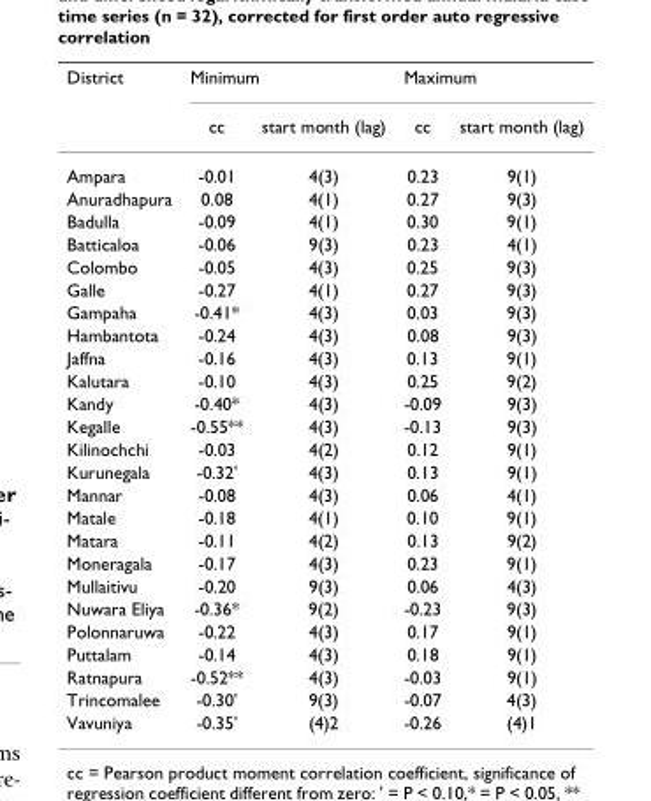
<table><thead><tr><td rowspan="2">District</td><td colspan="2">Minimum</td><td colspan="2">Maximum</td></tr><tr><td>cc</td><td>start month (lag)</td><td>cc</td><td>start month (lag)</td></tr></thead><tbody><tr><td>Ampara</td><td>-0.01</td><td>4(3)</td><td>0.23</td><td>9(1)</td></tr><tr><td>Anuradhapura</td><td>0.08</td><td>4(1)</td><td>0.27</td><td>9(3)</td></tr><tr><td>Badulla</td><td>-0.09</td><td>4(1)</td><td>0.30</td><td>9(1)</td></tr><tr><td>Batticaloa</td><td>-0.06</td><td>9(3)</td><td>0.23</td><td>4(1)</td></tr><tr><td>Colombo</td><td>-0.05</td><td>4(3)</td><td>0.25</td><td>9(3)</td></tr><tr><td>Galle</td><td>-0.27</td><td>4(1)</td><td>0.27</td><td>9(3)</td></tr><tr><td>Gampaha</td><td>-0.41*</td><td>4(3)</td><td>0.03</td><td>9(3)</td></tr><tr><td>Hambantota</td><td>-0.24</td><td>4(3)</td><td>0.08</td><td>9(3)</td></tr><tr><td>Jaffna</td><td>-0.16</td><td>4(3)</td><td>0.13</td><td>9(1)</td></tr><tr><td>Kalutara</td><td>-0.10</td><td>4(3)</td><td>0.25</td><td>9(2)</td></tr><tr><td>Kandy</td><td>-0.40*</td><td>4(3)</td><td>-0.09</td><td>9(3)</td></tr><tr><td>Kegalle</td><td>-0.55**</td><td>4(3)</td><td>-0.13</td><td>9(3)</td></tr><tr><td>Kilinochchi</td><td>-0.03</td><td>4(2)</td><td>0.12</td><td>9(1)</td></tr><tr><td>Kurunegala</td><td>-0.32&#x27;</td><td>4(3)</td><td>0.13</td><td>9(1)</td></tr><tr><td>Mannar</td><td>-0.08</td><td>4(3)</td><td>0.06</td><td>4(1)</td></tr><tr><td>Matale</td><td>-0.18</td><td>4(1)</td><td>0.10</td><td>9(1)</td></tr><tr><td>Matara</td><td>-0.11</td><td>4(2)</td><td>0.13</td><td>9(2)</td></tr><tr><td>Moneragala</td><td>-0.17</td><td>4(3)</td><td>0.23</td><td>9(1)</td></tr><tr><td>Mullaitivu</td><td>-0.20</td><td>9(3)</td><td>0.06</td><td>4(3)</td></tr><tr><td>Nuwara Eliya</td><td>-0.36*</td><td>9(2)</td><td>-0.23</td><td>9(3)</td></tr><tr><td>Polonnaruwa</td><td>-0.22</td><td>4(3)</td><td>0.17</td><td>9(1)</td></tr><tr><td>Puttalam</td><td>-0.14</td><td>4(3)</td><td>0.18</td><td>9(1)</td></tr><tr><td>Ratnapura</td><td>-0.52**</td><td>4(3)</td><td>-0.03</td><td>9(1)</td></tr><tr><td>Trincomalee</td><td>-0.30&#x27;</td><td>9(3)</td><td>-0.07</td><td>4(3)</td></tr><tr><td>Vavuniya</td><td>-0.35&#x27;</td><td>(4)2</td><td>-0.26</td><td>(4)1</td></tr></tbody></table>